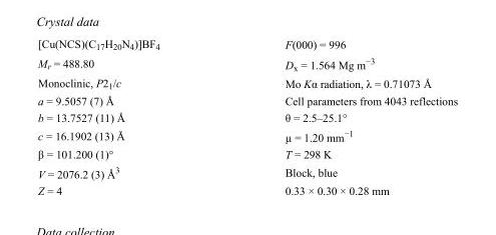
<table><tbody><tr><td>[Cu(NCS)(C<sub>17</sub>H<sub>20</sub>N<sub>4</sub>)]BF<sub>4</sub></td><td>F(000) = 996</td></tr><tr><td>M<sub>r</sub> = 488.80</td><td>D<sub>x</sub> = 1.564 Mg m<sup>−3</sup></td></tr><tr><td>Monoclinic, P2<sub>1</sub>/c</td><td>Mo Kα radiation, λ = 0.71073 Å</td></tr><tr><td>a = 9.5057 (7) Å</td><td>Cell parameters from 4043 reflections</td></tr><tr><td>b = 13.7527 (11) Å</td><td>θ = 2.5–25.1°</td></tr><tr><td>c = 16.1902 (13) Å</td><td>µ = 1.20 mm<sup>−1</sup></td></tr><tr><td>β = 101.200 (1)°</td><td>T = 298 K</td></tr><tr><td>V = 2076.2 (3) Å<sup>3</sup></td><td>Block, blue</td></tr><tr><td>Z = 4</td><td>0.33 × 0.30 × 0.28 mm</td></tr></tbody></table>